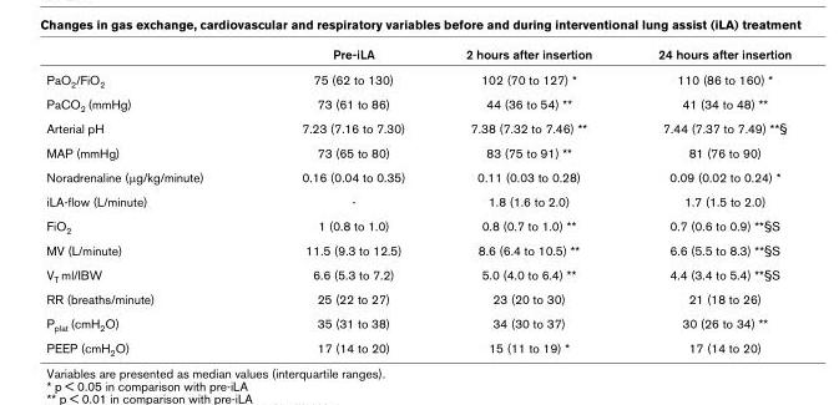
<table><thead><tr><td></td><td>Pre-iLA</td><td>2 hours after insertion</td><td>24 hours after insertion</td></tr></thead><tbody><tr><td>PaO<sub>2</sub>/FiO<sub>2</sub></td><td>75 (62 to 130)</td><td>102 (70 to 127) *</td><td>110 (86 to 160) *</td></tr><tr><td>PaCO<sub>2</sub> (mmHg)</td><td>73 (61 to 86)</td><td>44 (36 to 54) **</td><td>41 (34 to 48) **</td></tr><tr><td>Arterial pH</td><td>7.23 (7.16 to 7.30)</td><td>7.38 (7.32 to 7.46) **</td><td>7.44 (7.37 to 7.49) **§</td></tr><tr><td>MAP (mmHg)</td><td>73 (65 to 80)</td><td>83 (75 to 91) **</td><td>81 (76 to 90)</td></tr><tr><td>Noradrenaline (μg/kg/minute)</td><td>0.16 (0.04 to 0.35)</td><td>0.11 (0.03 to 0.28)</td><td>0.09 (0.02 to 0.24) *</td></tr><tr><td>iLA-flow (L/minute)</td><td>-</td><td>1.8 (1.6 to 2.0)</td><td>1.7 (1.5 to 2.0)</td></tr><tr><td>FiO<sub>2</sub></td><td>1 (0.8 to 1.0)</td><td>0.8 (0.7 to 1.0) **</td><td>0.7 (0.6 to 0.9) **§S</td></tr><tr><td>MV (L/minute)</td><td>11.5 (9.3 to 12.5)</td><td>8.6 (6.4 to 10.5) **</td><td>6.6 (5.5 to 8.3) **§S</td></tr><tr><td>V<sub>T</sub> ml/IBW</td><td>6.6 (5.3 to 7.2)</td><td>5.0 (4.0 to 6.4) **</td><td>4.4 (3.4 to 5.4) **§S</td></tr><tr><td>RR (breaths/minute)</td><td>25 (22 to 27)</td><td>23 (20 to 30)</td><td>21 (18 to 26)</td></tr><tr><td>P<sub>plat</sub> (cmH<sub>2</sub>O)</td><td>35 (31 to 38)</td><td>34 (30 to 37)</td><td>30 (26 to 34) **</td></tr><tr><td>PEEP (cmH<sub>2</sub>O)</td><td>17 (14 to 20)</td><td>15 (11 to 19) *</td><td>17 (14 to 20)</td></tr></tbody></table>